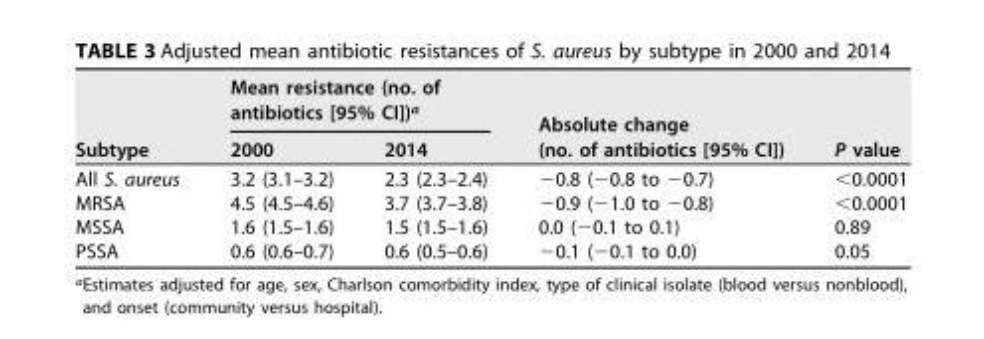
<table><thead><tr><td rowspan="2">Subtype</td><td colspan="2">Mean resistance (no. of antibiotics [95% CI])<sup>a</sup></td><td rowspan="2">Absolute change (no. of antibiotics [95% CI])</td><td rowspan="2">P value</td></tr><tr><td>2000</td><td>2014</td></tr></thead><tbody><tr><td>All S. aureus</td><td>3.2 (3.1–3.2)</td><td>2.3 (2.3–2.4)</td><td>−0.8 (−0.8 to −0.7)</td><td>&lt;0.0001</td></tr><tr><td>MRSA</td><td>4.5 (4.5–4.6)</td><td>3.7 (3.7–3.8)</td><td>−0.9 (−1.0 to −0.8)</td><td>&lt;0.0001</td></tr><tr><td>MSSA</td><td>1.6 (1.5–1.6)</td><td>1.5 (1.5–1.6)</td><td>0.0 (−0.1 to 0.1)</td><td>0.89</td></tr><tr><td>PSSA</td><td>0.6 (0.6–0.7)</td><td>0.6 (0.5–0.6)</td><td>−0.1 (−0.1 to 0.0)</td><td>0.05</td></tr></tbody></table>